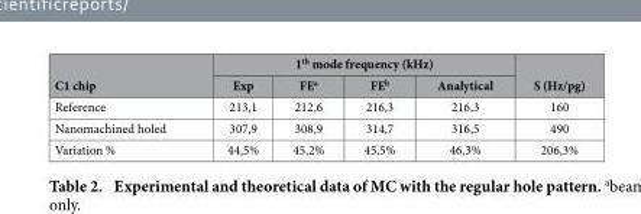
<table><thead><tr><td rowspan="2">C1 chip</td><td colspan="4">1<sup>th</sup> mode frequency (kHz)</td><td rowspan="2">S (Hz/pg)</td></tr><tr><td>Exp</td><td>FE<sup>a</sup></td><td>FE<sup>b</sup></td><td>Analytical</td></tr></thead><tbody><tr><td>Reference</td><td>213,1</td><td>212,6</td><td>216,3</td><td>216,3</td><td>160</td></tr><tr><td>Nanomachined holed</td><td>307,9</td><td>308,9</td><td>314,7</td><td>316,5</td><td>490</td></tr><tr><td>Variation %</td><td>44,5%</td><td>45,2%</td><td>45,5%</td><td>46,3%</td><td>206,3%</td></tr></tbody></table>